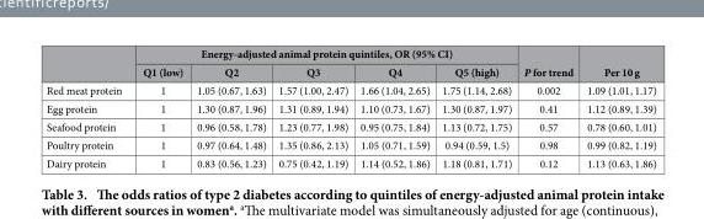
<table><thead><tr><td rowspan="2"></td><td colspan="5">Energy-adjusted animal protein quintiles, OR (95% CI)</td><td rowspan="2">P for trend</td><td rowspan="2">Per 10 g</td></tr><tr><td>Q1 (low)</td><td>Q2</td><td>Q3</td><td>Q4</td><td>Q5 (high)</td></tr></thead><tbody><tr><td>Red meat protein</td><td>1</td><td>1.05 (0.67, 1.63)</td><td>1.57 (1.00, 2.47)</td><td>1.66 (1.04, 2.65)</td><td>1.75 (1.14, 2.68)</td><td>0.002</td><td>1.09 (1.01, 1.17)</td></tr><tr><td>Egg protein</td><td>1</td><td>1.30 (0.87, 1.96)</td><td>1.31 (0.89, 1.94)</td><td>1.10 (0.73, 1.67)</td><td>1.30 (0.87, 1.97)</td><td>0.41</td><td>1.12 (0.89, 1.39)</td></tr><tr><td>Seafood protein</td><td>1</td><td>0.96 (0.58, 1.78)</td><td>1.23 (0.77, 1.98)</td><td>0.95 (0.75, 1.84)</td><td>1.13 (0.72, 1.75)</td><td>0.57</td><td>0.78 (0.60, 1.01)</td></tr><tr><td>Poultry protein</td><td>1</td><td>0.97 (0.64, 1.48)</td><td>1.35 (0.86, 2.13)</td><td>1.05 (0.71, 1.59)</td><td>0.94 (0.59, 1.5)</td><td>0.98</td><td>0.99 (0.82, 1.19)</td></tr><tr><td>Dairy protein</td><td>1</td><td>0.83 (0.56, 1.23)</td><td>0.75 (0.42, 1.19)</td><td>1.14 (0.52, 1.86)</td><td>1.18 (0.81, 1.71)</td><td>0.12</td><td>1.13 (0.63, 1.86)</td></tr></tbody></table>